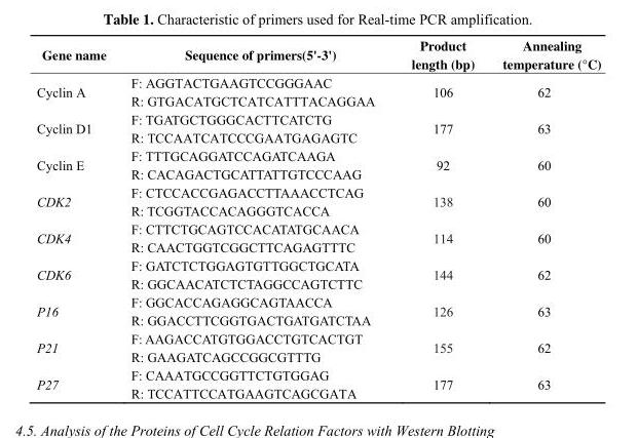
<table><thead><tr><td>Gene name</td><td>Sequence of primers(5&#x27;-3&#x27;)</td><td>Product length (bp)</td><td>Annealing temperature (°C)</td></tr></thead><tbody><tr><td>Cyclin A</td><td>F: AGGTACTGAAGTCCGGGAAC R: GTGACATGCTCATCATTTACAGGAA</td><td>106</td><td>62</td></tr><tr><td>Cyclin D1</td><td>F: TGATGCTGGGCACTTCATCTG R: TCCAATCATCCCGAATGAGAGTC</td><td>177</td><td>63</td></tr><tr><td>Cyclin E</td><td>F: TTTGCAGGATCCAGATCAAGA R: CACAGACTGCATTATTGTCCCAAG</td><td>92</td><td>60</td></tr><tr><td>CDK2</td><td>F: CTCCACCGAGACCTTAAACCTCAG R: TCGGTACCACAGGGTCACCA</td><td>138</td><td>60</td></tr><tr><td>CDK4</td><td>F: CTTCTGCAGTCCACATATGCAACA R: CAACTGGTCGGCTTCAGAGTTTC</td><td>114</td><td>60</td></tr><tr><td>CDK6</td><td>F: GATCTCTGGAGTGTTGGCTGCATA R: GGCAACATCTCTAGGCCAGTCTTC</td><td>144</td><td>62</td></tr><tr><td>P16</td><td>F: GGCACCAGAGGCAGTAACCA R: GGACCTTCGGTGACTGATGATCTAA</td><td>126</td><td>63</td></tr><tr><td>P21</td><td>F: AAGACCATGTGGACCTGTCACTGT R: GAAGATCAGCCGGCGTTTG</td><td>155</td><td>62</td></tr><tr><td>P27</td><td>F: CAAATGCCGGTTCTGTGGAG R: TCCATTCCATGAAGTCAGCGATA</td><td>177</td><td>63</td></tr></tbody></table>